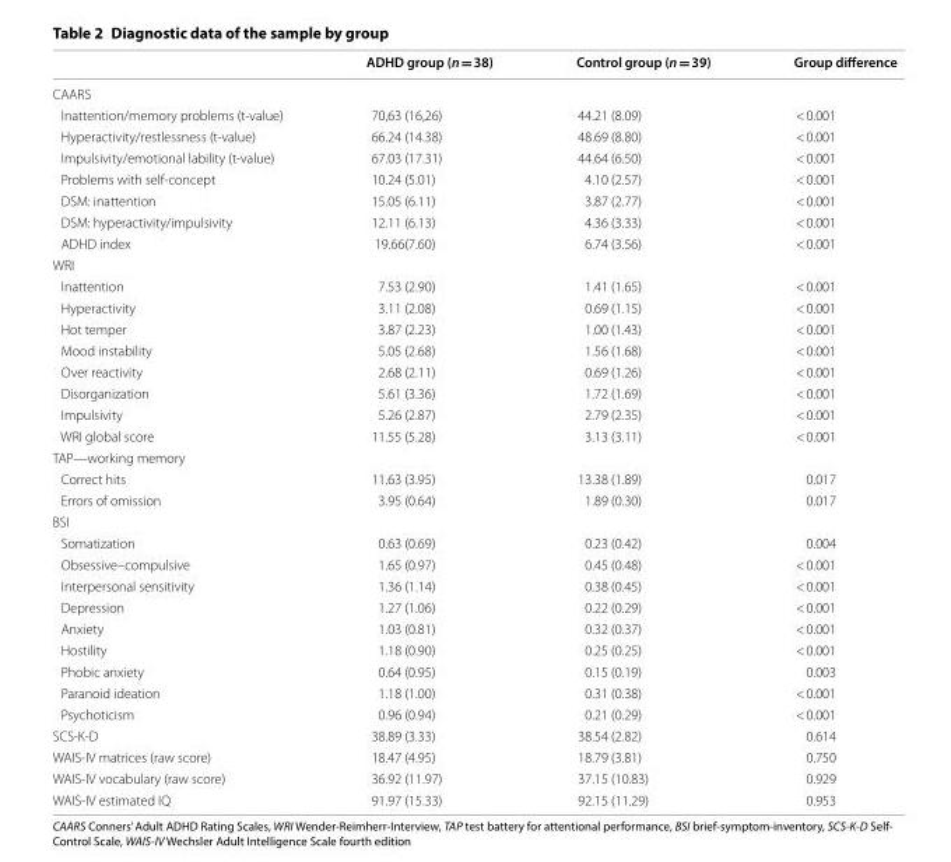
<table><thead><tr><td></td><td>ADHD group (n = 38)</td><td>Control group (n = 39)</td><td>Group difference</td></tr></thead><tbody><tr><td colspan="4">CAARS</td></tr><tr><td>Inattention/memory problems (t‑value)</td><td>70,63 (16,26)</td><td>44.21 (8.09)</td><td>&lt; 0.001</td></tr><tr><td>Hyperactivity/restlessness (t‑value)</td><td>66.24 (14.38)</td><td>48.69 (8.80)</td><td>&lt; 0.001</td></tr><tr><td>Impulsivity/emotional lability (t‑value)</td><td>67.03 (17.31)</td><td>44.64 (6.50)</td><td>&lt; 0.001</td></tr><tr><td>Problems with self‑concept</td><td>10.24 (5.01)</td><td>4.10 (2.57)</td><td>&lt; 0.001</td></tr><tr><td>DSM: inattention</td><td>15.05 (6.11)</td><td>3.87 (2.77)</td><td>&lt; 0.001</td></tr><tr><td>DSM: hyperactivity/impulsivity</td><td>12.11 (6.13)</td><td>4.36 (3.33)</td><td>&lt; 0.001</td></tr><tr><td>ADHD index</td><td>19.66(7.60)</td><td>6.74 (3.56)</td><td>&lt; 0.001</td></tr><tr><td colspan="4">WRI</td></tr><tr><td>Inattention</td><td>7.53 (2.90)</td><td>1.41 (1.65)</td><td>&lt; 0.001</td></tr><tr><td>Hyperactivity</td><td>3.11 (2.08)</td><td>0.69 (1.15)</td><td>&lt; 0.001</td></tr><tr><td>Hot temper</td><td>3.87 (2.23)</td><td>1.00 (1.43)</td><td>&lt; 0.001</td></tr><tr><td>Mood instability</td><td>5.05 (2.68)</td><td>1.56 (1.68)</td><td>&lt; 0.001</td></tr><tr><td>Over reactivity</td><td>2.68 (2.11)</td><td>0.69 (1.26)</td><td>&lt; 0.001</td></tr><tr><td>Disorganization</td><td>5.61 (3.36)</td><td>1.72 (1.69)</td><td>&lt; 0.001</td></tr><tr><td>Impulsivity</td><td>5.26 (2.87)</td><td>2.79 (2.35)</td><td>&lt; 0.001</td></tr><tr><td>WRI global score</td><td>11.55 (5.28)</td><td>3.13 (3.11)</td><td>&lt; 0.001</td></tr><tr><td colspan="4">TAP—working memory</td></tr><tr><td>Correct hits</td><td>11.63 (3.95)</td><td>13.38 (1.89)</td><td>0.017</td></tr><tr><td>Errors of omission</td><td>3.95 (0.64)</td><td>1.89 (0.30)</td><td>0.017</td></tr><tr><td colspan="4">BSI</td></tr><tr><td>Somatization</td><td>0.63 (0.69)</td><td>0.23 (0.42)</td><td>0.004</td></tr><tr><td>Obsessive–compulsive</td><td>1.65 (0.97)</td><td>0.45 (0.48)</td><td>&lt; 0.001</td></tr><tr><td>Interpersonal sensitivity</td><td>1.36 (1.14)</td><td>0.38 (0.45)</td><td>&lt; 0.001</td></tr><tr><td>Depression</td><td>1.27 (1.06)</td><td>0.22 (0.29)</td><td>&lt; 0.001</td></tr><tr><td>Anxiety</td><td>1.03 (0.81)</td><td>0.32 (0.37)</td><td>&lt; 0.001</td></tr><tr><td>Hostility</td><td>1.18 (0.90)</td><td>0.25 (0.25)</td><td>&lt; 0.001</td></tr><tr><td>Phobic anxiety</td><td>0.64 (0.95)</td><td>0.15 (0.19)</td><td>0.003</td></tr><tr><td>Paranoid ideation</td><td>1.18 (1.00)</td><td>0.31 (0.38)</td><td>&lt; 0.001</td></tr><tr><td>Psychoticism</td><td>0.96 (0.94)</td><td>0.21 (0.29)</td><td>&lt; 0.001</td></tr><tr><td>SCS‑K‑D</td><td>38.89 (3.33)</td><td>38.54 (2.82)</td><td>0.614</td></tr><tr><td>WAIS‑IV matrices (raw score)</td><td>18.47 (4.95)</td><td>18.79 (3.81)</td><td>0.750</td></tr><tr><td>WAIS‑IV vocabulary (raw score)</td><td>36.92 (11.97)</td><td>37.15 (10.83)</td><td>0.929</td></tr><tr><td>WAIS‑IV estimated IQ</td><td>91.97 (15.33)</td><td>92.15 (11.29)</td><td>0.953</td></tr></tbody></table>